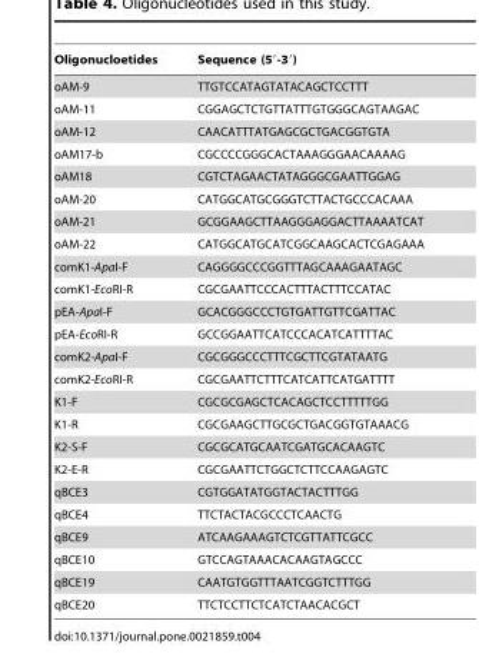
<table><thead><tr><td>Oligonucloetides</td><td>Sequence (5′-3′)</td></tr></thead><tbody><tr><td>oAM-9</td><td>TTGTCCATAGTATACAGCTCCTTT</td></tr><tr><td>oAM-11</td><td>CGGAGCTCTGTTATTTGTGGGCAGTAAGAC</td></tr><tr><td>oAM-12</td><td>CAACATTTATGAGCGCTGACGGTGTA</td></tr><tr><td>oAM17-b</td><td>CGCCCCGGGCACTAAAGGGAACAAAAG</td></tr><tr><td>oAM18</td><td>CGTCTAGAACTATAGGGCGAATTGGAG</td></tr><tr><td>oAM-20</td><td>CATGGCATGCGGGTCTTACTGCCCACAAA</td></tr><tr><td>oAM-21</td><td>GCGGAAGCTTAAGGGAGGACTTAAAATCAT</td></tr><tr><td>oAM-22</td><td>CATGGCATGCATCGGCAAGCACTCGAGAAA</td></tr><tr><td>comK1-ApaI-F</td><td>CAGGGGCCCGGTTTAGCAAAGAATAGC</td></tr><tr><td>comK1-EcoRI-R</td><td>CGCGAATTCCCACTTTACTTTCCATAC</td></tr><tr><td>pEA-ApaI-F</td><td>GCACGGGCCCTGTGATTGTTCGATTAC</td></tr><tr><td>pEA-EcoRI-R</td><td>GCCGGAATTCATCCCACATCATTTTAC</td></tr><tr><td>comK2-ApaI-F</td><td>CGCGGGCCCTTTCGCTTCGTATAATG</td></tr><tr><td>comK2-EcoRI-R</td><td>CGCGAATTCTTTCATCATTCATGATTTT</td></tr><tr><td>K1-F</td><td>CGCGCGAGCTCACAGCTCCTTTTTGG</td></tr><tr><td>K1-R</td><td>CGCGAAGCTTGCGCTGACGGTGTAAACG</td></tr><tr><td>K2-S-F</td><td>CGCGCATGCAATCGATGCACAAGTC</td></tr><tr><td>K2-E-R</td><td>CGCGAATTCTGGCTCTTCCAAGAGTC</td></tr><tr><td>qBCE3</td><td>CGTGGATATGGTACTACTTTGG</td></tr><tr><td>qBCE4</td><td>TTCTACTACGCCCTCAACTG</td></tr><tr><td>qBCE9</td><td>ATCAAGAAAGTCTCGTTATTCGCC</td></tr><tr><td>qBCE10</td><td>GTCCAGTAAACACAAGTAGCCC</td></tr><tr><td>qBCE19</td><td>CAATGTGGTTTAATCGGTCTTTGG</td></tr><tr><td>qBCE20</td><td>TTCTCCTTCTCATCTAACACGCT</td></tr></tbody></table>